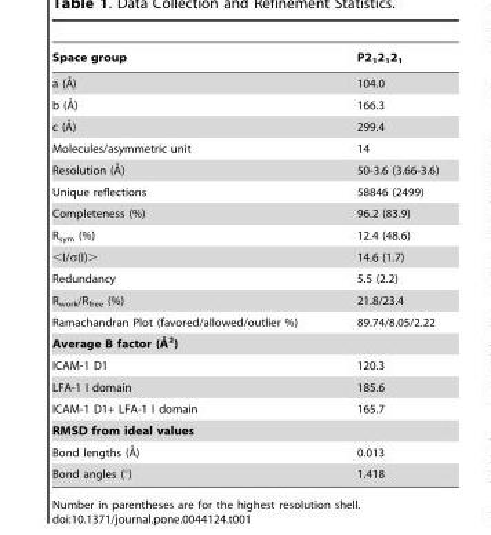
<table><thead><tr><td>Space group</td><td>P2<sub>1</sub>2<sub>1</sub>2<sub>1</sub></td></tr></thead><tbody><tr><td>a (A˚)</td><td>104.0</td></tr><tr><td>b (A˚)</td><td>166.3</td></tr><tr><td>c (A˚)</td><td>299.4</td></tr><tr><td>Molecules/asymmetric unit</td><td>14</td></tr><tr><td>Resolution (A˚)</td><td>50-3.6 (3.66-3.6)</td></tr><tr><td>Unique reflections</td><td>58846 (2499)</td></tr><tr><td>Completeness (%)</td><td>96.2 (83.9)</td></tr><tr><td>R<sub>sym</sub> (%)</td><td>12.4 (48.6)</td></tr><tr><td>&lt;I/σ(I)&gt;</td><td>14.6 (1.7)</td></tr><tr><td>Redundancy</td><td>5.5 (2.2)</td></tr><tr><td>R<sub>work</sub>/R<sub>free</sub> (%)</td><td>21.8/23.4</td></tr><tr><td>Ramachandran Plot (favored/allowed/outlier %)</td><td>89.74/8.05/2.22</td></tr><tr><td colspan="2">Average B factor (A˚ 2)</td></tr><tr><td>ICAM-1 D1</td><td>120.3</td></tr><tr><td>LFA-1 I domain</td><td>185.6</td></tr><tr><td>ICAM-1 D1+ LFA-1 I domain</td><td>165.7</td></tr><tr><td colspan="2">RMSD from ideal values</td></tr><tr><td>Bond lengths (A˚)</td><td>0.013</td></tr><tr><td>Bond angles (°)</td><td>1.418</td></tr></tbody></table>